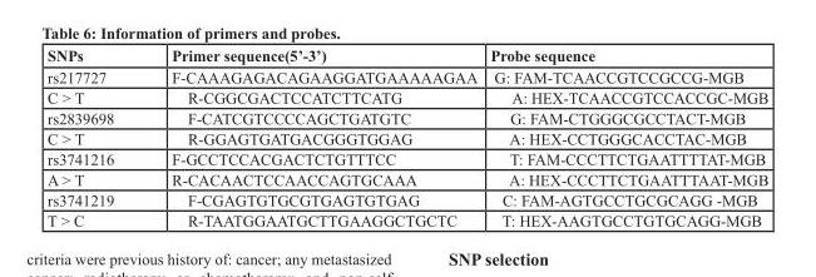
<table><thead><tr><td>SNPs</td><td>Primer sequence(5’-3’)</td><td>Probe sequence</td></tr></thead><tbody><tr><td>rs217727</td><td>F-CAAAGAGACAGAAGGATGAAAAAGAA</td><td>G: FAM-TCAACCGTCCGCCG-MGB</td></tr><tr><td>C &gt; T</td><td>R-CGGCGACTCCATCTTCATG</td><td>A: HEX-TCAACCGTCCACCGC-MGB</td></tr><tr><td>rs2839698</td><td>F-CATCGTCCCCAGCTGATGTC</td><td>G: FAM-CTGGGCGCCTACT-MGB</td></tr><tr><td>C &gt; T</td><td>R-GGAGTGATGACGGGTGGAG</td><td>A: HEX-CCTGGGCACCTAC-MGB</td></tr><tr><td>rs3741216</td><td>F-GCCTCCACGACTCTGTTTCC</td><td>T: FAM-CCCTTCTGAATTTTAT-MGB</td></tr><tr><td>A &gt; T</td><td>R-CACAACTCCAACCAGTGCAAA</td><td>A: HEX-CCCTTCTGAATTTAAT-MGB</td></tr><tr><td>rs3741219</td><td>F-CGAGTGTGCGTGAGTGTGAG</td><td>C: FAM-AGTGCCTGCGCAGG -MGB</td></tr><tr><td>T &gt; C</td><td>R-TAATGGAATGCTTGAAGGCTGCTC</td><td>T: HEX-AAGTGCCTGTGCAGG-MGB</td></tr></tbody></table>